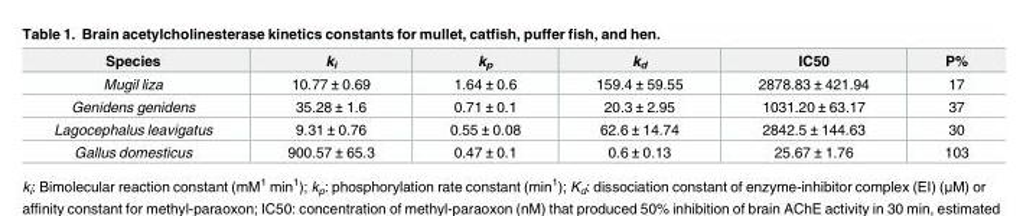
<table><thead><tr><td>Species</td><td>k<sub>i</sub></td><td>k<sub>p</sub></td><td>k<sub>d</sub></td><td>IC50</td><td>P%</td></tr></thead><tbody><tr><td>Mugil liza</td><td>10.77 ± 0.69</td><td>1.64 ± 0.6</td><td>159.4 ± 59.55</td><td>2878.83 ± 421.94</td><td>17</td></tr><tr><td>Genidens genidens</td><td>35.28 ± 1.6</td><td>0.71 ± 0.1</td><td>20.3 ± 2.95</td><td>1031.20 ± 63.17</td><td>37</td></tr><tr><td>Lagocephalus leavigatus</td><td>9.31 ± 0.76</td><td>0.55 ± 0.08</td><td>62.6 ± 14.74</td><td>2842.5 ± 144.63</td><td>30</td></tr><tr><td>Gallus domesticus</td><td>900.57 ± 65.3</td><td>0.47 ± 0.1</td><td>0.6 ± 0.13</td><td>25.67 ± 1.76</td><td>103</td></tr></tbody></table>